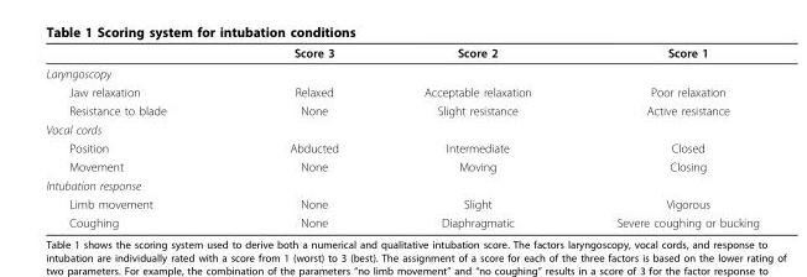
<table><thead><tr><td></td><td>Score 3</td><td>Score 2</td><td>Score 1</td></tr></thead><tbody><tr><td colspan="4">Laryngoscopy</td></tr><tr><td>Jaw relaxation</td><td>Relaxed</td><td>Acceptable relaxation</td><td>Poor relaxation</td></tr><tr><td>Resistance to blade</td><td>None</td><td>Slight resistance</td><td>Active resistance</td></tr><tr><td colspan="4">Vocal cords</td></tr><tr><td>Position</td><td>Abducted</td><td>Intermediate</td><td>Closed</td></tr><tr><td>Movement</td><td>None</td><td>Moving</td><td>Closing</td></tr><tr><td colspan="4">Intubation response</td></tr><tr><td>Limb movement</td><td>None</td><td>Slight</td><td>Vigorous</td></tr><tr><td>Coughing</td><td>None</td><td>Diaphragmatic</td><td>Severe coughing or bucking</td></tr></tbody></table>